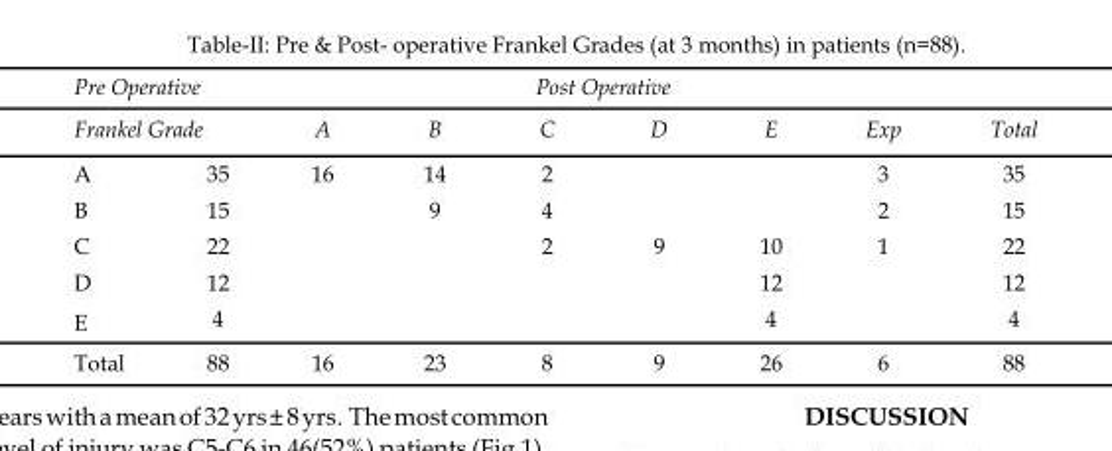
<table><thead><tr><td rowspan="2" colspan="2">Pre Operative Frankel Grade</td><td colspan="6">Post Operative</td><td rowspan="3">Total 35</td></tr><tr><td rowspan="2">A 16</td><td rowspan="2">B 14</td><td rowspan="2">C 2</td><td rowspan="2">D</td><td rowspan="2">E</td><td rowspan="2">Exp 3</td></tr><tr><td>A</td><td>35</td></tr></thead><tbody><tr><td>B</td><td>15</td><td></td><td>9</td><td>4</td><td></td><td></td><td>2</td><td>15</td></tr><tr><td>C</td><td>22</td><td></td><td></td><td>2</td><td>9</td><td>10</td><td>1</td><td>22</td></tr><tr><td>D</td><td>12</td><td></td><td></td><td></td><td></td><td>12</td><td></td><td>12</td></tr><tr><td>E</td><td>4</td><td></td><td></td><td></td><td></td><td>4</td><td></td><td>4</td></tr><tr><td>Total</td><td>88</td><td>16</td><td>23</td><td>8</td><td>9</td><td>26</td><td>6</td><td>88</td></tr></tbody></table>